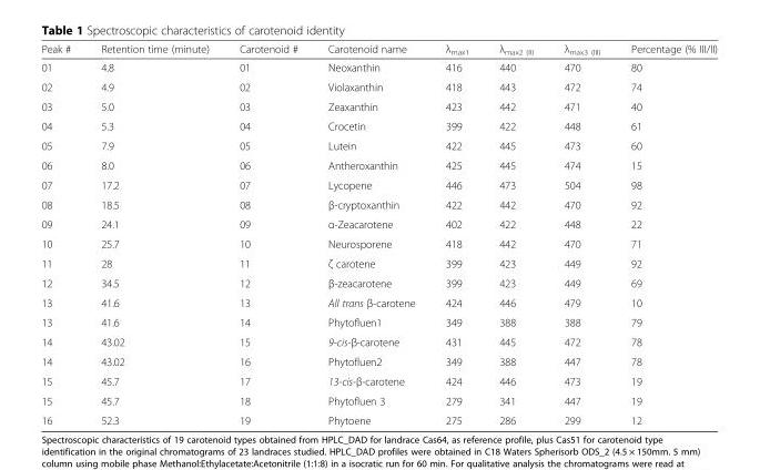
<table><thead><tr><td>Peak #</td><td>Retention time (minute)</td><td>Carotenoid #</td><td>Carotenoid name</td><td>λ<sub>max1</sub></td><td>λ<sub>max2 (II)</sub></td><td>λ<sub>max3 (III)</sub></td><td>Percentage (% III/II)</td></tr></thead><tbody><tr><td>01</td><td>4.8</td><td>01</td><td>Neoxanthin</td><td>416</td><td>440</td><td>470</td><td>80</td></tr><tr><td>02</td><td>4.9</td><td>02</td><td>Violaxanthin</td><td>418</td><td>443</td><td>472</td><td>74</td></tr><tr><td>03</td><td>5.0</td><td>03</td><td>Zeaxanthin</td><td>423</td><td>442</td><td>471</td><td>40</td></tr><tr><td>04</td><td>5.3</td><td>04</td><td>Crocetin</td><td>399</td><td>422</td><td>448</td><td>61</td></tr><tr><td>05</td><td>7.9</td><td>05</td><td>Lutein</td><td>422</td><td>445</td><td>473</td><td>60</td></tr><tr><td>06</td><td>8.0</td><td>06</td><td>Antheroxanthin</td><td>425</td><td>445</td><td>474</td><td>15</td></tr><tr><td>07</td><td>17.2</td><td>07</td><td>Lycopene</td><td>446</td><td>473</td><td>504</td><td>98</td></tr><tr><td>08</td><td>18.5</td><td>08</td><td>β-cryptoxanthin</td><td>422</td><td>442</td><td>470</td><td>92</td></tr><tr><td>09</td><td>24.1</td><td>09</td><td>α-Zeacarotene</td><td>402</td><td>422</td><td>448</td><td>22</td></tr><tr><td>10</td><td>25.7</td><td>10</td><td>Neurosporene</td><td>418</td><td>442</td><td>470</td><td>71</td></tr><tr><td>11</td><td>28</td><td>11</td><td>ζ carotene</td><td>399</td><td>423</td><td>449</td><td>92</td></tr><tr><td>12</td><td>34.5</td><td>12</td><td>β-zeacarotene</td><td>399</td><td>423</td><td>449</td><td>69</td></tr><tr><td>13</td><td>41.6</td><td>13</td><td>All trans β-carotene</td><td>424</td><td>446</td><td>479</td><td>10</td></tr><tr><td>13</td><td>41.6</td><td>14</td><td>Phytofluen1</td><td>349</td><td>388</td><td>388</td><td>79</td></tr><tr><td>14</td><td>43.02</td><td>15</td><td>9-cis-β-carotene</td><td>431</td><td>445</td><td>472</td><td>78</td></tr><tr><td>14</td><td>43.02</td><td>16</td><td>Phytofluen2</td><td>349</td><td>388</td><td>447</td><td>78</td></tr><tr><td>15</td><td>45.7</td><td>17</td><td>13-cis-β-carotene</td><td>424</td><td>446</td><td>473</td><td>19</td></tr><tr><td>15</td><td>45.7</td><td>18</td><td>Phytofluen 3</td><td>279</td><td>341</td><td>447</td><td>19</td></tr><tr><td>16</td><td>52.3</td><td>19</td><td>Phytoene</td><td>275</td><td>286</td><td>299</td><td>12</td></tr></tbody></table>